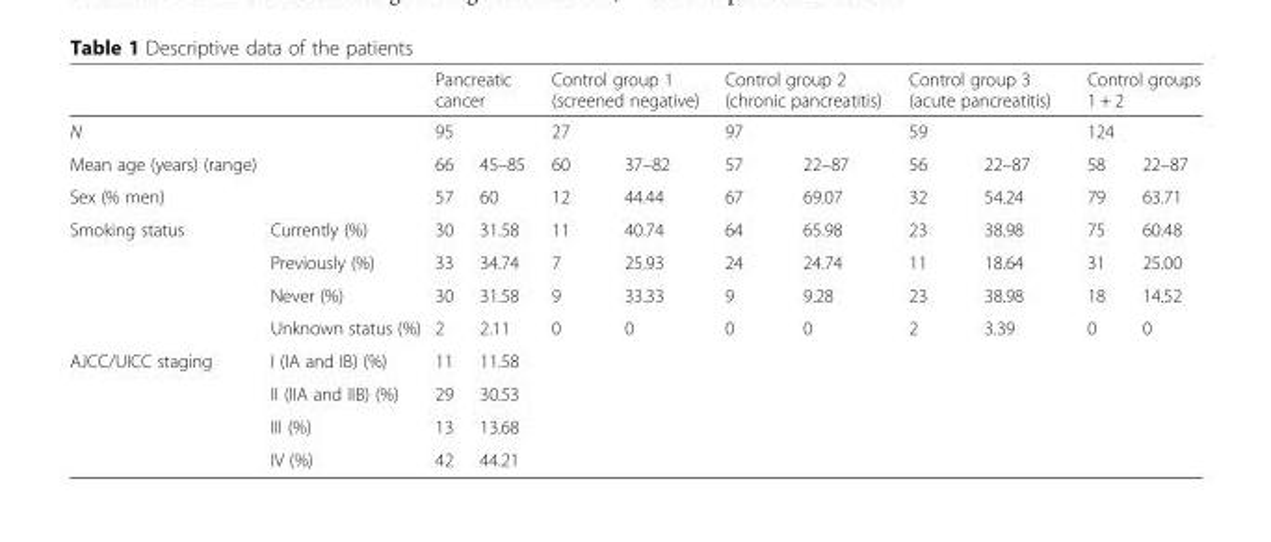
<table><thead><tr><td rowspan="2">N</td><td rowspan="2"></td><td colspan="2">Pancreatic cancer</td><td colspan="2">Control group 1 (screened negative)</td><td colspan="2">Control group 2 (chronic pancreatitis)</td><td colspan="2">Control group 3 (acute pancreatitis)</td><td colspan="2">Control groups 1 + 2</td></tr><tr><td>95</td><td></td><td>27</td><td></td><td>97</td><td></td><td>59</td><td></td><td>124</td><td></td></tr></thead><tbody><tr><td>Mean age (years) (range)</td><td></td><td>66</td><td>45–85</td><td>60</td><td>37–82</td><td>57</td><td>22–87</td><td>56</td><td>22–87</td><td>58</td><td>22–87</td></tr><tr><td>Sex (% men)</td><td></td><td>57</td><td>60</td><td>12</td><td>44.44</td><td>67</td><td>69.07</td><td>32</td><td>54.24</td><td>79</td><td>63.71</td></tr><tr><td rowspan="4">Smoking status</td><td>Currently (%)</td><td>30</td><td>31.58</td><td>11</td><td>40.74</td><td>64</td><td>65.98</td><td>23</td><td>38.98</td><td>75</td><td>60.48</td></tr><tr><td>Previously (%)</td><td>33</td><td>34.74</td><td>7</td><td>25.93</td><td>24</td><td>24.74</td><td>11</td><td>18.64</td><td>31</td><td>25.00</td></tr><tr><td>Never (%)</td><td>30</td><td>31.58</td><td>9</td><td>33.33</td><td>9</td><td>9.28</td><td>23</td><td>38.98</td><td>18</td><td>14.52</td></tr><tr><td>Unknown status (%)</td><td>2</td><td>2.11</td><td>0</td><td>0</td><td>0</td><td>0</td><td>2</td><td>3.39</td><td>0</td><td>0</td></tr><tr><td rowspan="4">AJCC/UICC staging</td><td>I (IA and IB) (%)</td><td>11</td><td>11.58</td><td></td><td></td><td></td><td></td><td></td><td></td><td></td><td></td></tr><tr><td>II (IIA and IIB) (%)</td><td>29</td><td>30.53</td><td></td><td></td><td></td><td></td><td></td><td></td><td></td><td></td></tr><tr><td>III (%)</td><td>13</td><td>13.68</td><td></td><td></td><td></td><td></td><td></td><td></td><td></td><td></td></tr><tr><td>IV (%)</td><td>42</td><td>44.21</td><td></td><td></td><td></td><td></td><td></td><td></td><td></td><td></td></tr></tbody></table>